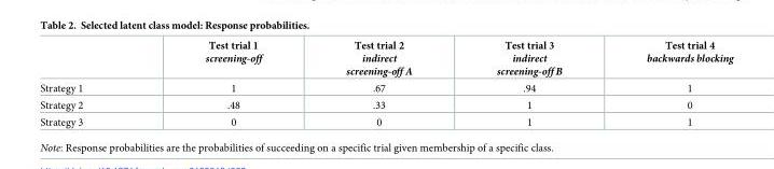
<table><thead><tr><td></td><td>Test trial 1 screening-off</td><td>Test trial 2 indirect screening-off A</td><td>Test trial 3 indirect screening-off B</td><td>Test trial 4 backwards blocking</td></tr></thead><tbody><tr><td>Strategy 1</td><td>1</td><td>.67</td><td>.94</td><td>1</td></tr><tr><td>Strategy 2</td><td>.48</td><td>.33</td><td>1</td><td>0</td></tr><tr><td>Strategy 3</td><td>0</td><td>0</td><td>1</td><td>1</td></tr></tbody></table>